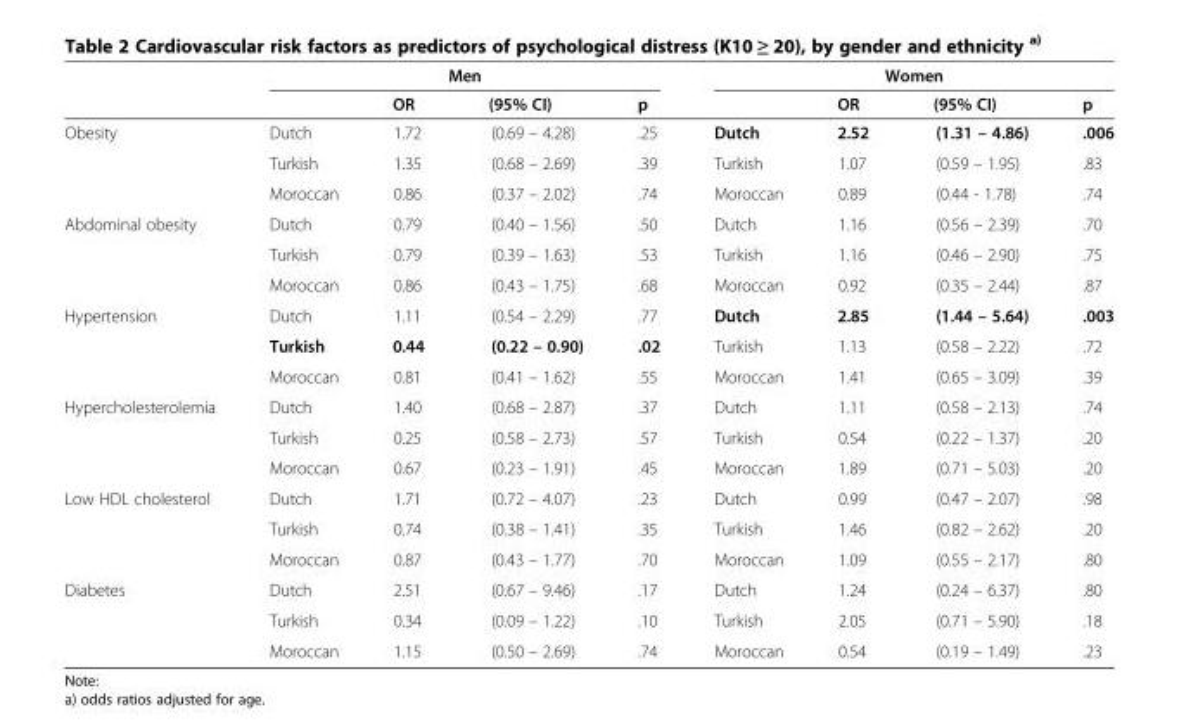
<table><thead><tr><td rowspan="2"></td><td colspan="4">Men</td><td colspan="4">Women</td></tr><tr><td></td><td>OR</td><td>(95% CI)</td><td>p</td><td></td><td>OR</td><td>(95% CI)</td><td>p</td></tr></thead><tbody><tr><td rowspan="3">Obesity</td><td>Dutch</td><td>1.72</td><td>(0.69 – 4.28)</td><td>.25</td><td>Dutch</td><td>2.52</td><td>(1.31 – 4.86)</td><td>.006</td></tr><tr><td>Turkish</td><td>1.35</td><td>(0.68 – 2.69)</td><td>.39</td><td>Turkish</td><td>1.07</td><td>(0.59 – 1.95)</td><td>.83</td></tr><tr><td>Moroccan</td><td>0.86</td><td>(0.37 – 2.02)</td><td>.74</td><td>Moroccan</td><td>0.89</td><td>(0.44 - 1.78)</td><td>.74</td></tr><tr><td rowspan="3">Abdominal obesity</td><td>Dutch</td><td>0.79</td><td>(0.40 – 1.56)</td><td>.50</td><td>Dutch</td><td>1.16</td><td>(0.56 – 2.39)</td><td>.70</td></tr><tr><td>Turkish</td><td>0.79</td><td>(0.39 – 1.63)</td><td>.53</td><td>Turkish</td><td>1.16</td><td>(0.46 – 2.90)</td><td>.75</td></tr><tr><td>Moroccan</td><td>0.86</td><td>(0.43 – 1.75)</td><td>.68</td><td>Moroccan</td><td>0.92</td><td>(0.35 – 2.44)</td><td>.87</td></tr><tr><td rowspan="3">Hypertension</td><td>Dutch</td><td>1.11</td><td>(0.54 – 2.29)</td><td>.77</td><td>Dutch</td><td>2.85</td><td>(1.44 – 5.64)</td><td>.003</td></tr><tr><td>Turkish</td><td>0.44</td><td>(0.22 – 0.90)</td><td>.02</td><td>Turkish</td><td>1.13</td><td>(0.58 – 2.22)</td><td>.72</td></tr><tr><td>Moroccan</td><td>0.81</td><td>(0.41 – 1.62)</td><td>.55</td><td>Moroccan</td><td>1.41</td><td>(0.65 – 3.09)</td><td>.39</td></tr><tr><td rowspan="3">Hypercholesterolemia</td><td>Dutch</td><td>1.40</td><td>(0.68 – 2.87)</td><td>.37</td><td>Dutch</td><td>1.11</td><td>(0.58 – 2.13)</td><td>.74</td></tr><tr><td>Turkish</td><td>0.25</td><td>(0.58 – 2.73)</td><td>.57</td><td>Turkish</td><td>0.54</td><td>(0.22 – 1.37)</td><td>.20</td></tr><tr><td>Moroccan</td><td>0.67</td><td>(0.23 – 1.91)</td><td>.45</td><td>Moroccan</td><td>1.89</td><td>(0.71 – 5.03)</td><td>.20</td></tr><tr><td rowspan="3">Low HDL cholesterol</td><td>Dutch</td><td>1.71</td><td>(0.72 – 4.07)</td><td>.23</td><td>Dutch</td><td>0.99</td><td>(0.47 – 2.07)</td><td>.98</td></tr><tr><td>Turkish</td><td>0.74</td><td>(0.38 – 1.41)</td><td>.35</td><td>Turkish</td><td>1.46</td><td>(0.82 – 2.62)</td><td>.20</td></tr><tr><td>Moroccan</td><td>0.87</td><td>(0.43 – 1.77)</td><td>.70</td><td>Moroccan</td><td>1.09</td><td>(0.55 – 2.17)</td><td>.80</td></tr><tr><td rowspan="3">Diabetes</td><td>Dutch</td><td>2.51</td><td>(0.67 – 9.46)</td><td>.17</td><td>Dutch</td><td>1.24</td><td>(0.24 – 6.37)</td><td>.80</td></tr><tr><td>Turkish</td><td>0.34</td><td>(0.09 – 1.22)</td><td>.10</td><td>Turkish</td><td>2.05</td><td>(0.71 – 5.90)</td><td>.18</td></tr><tr><td>Moroccan</td><td>1.15</td><td>(0.50 – 2.69)</td><td>.74</td><td>Moroccan</td><td>0.54</td><td>(0.19 – 1.49)</td><td>.23</td></tr></tbody></table>